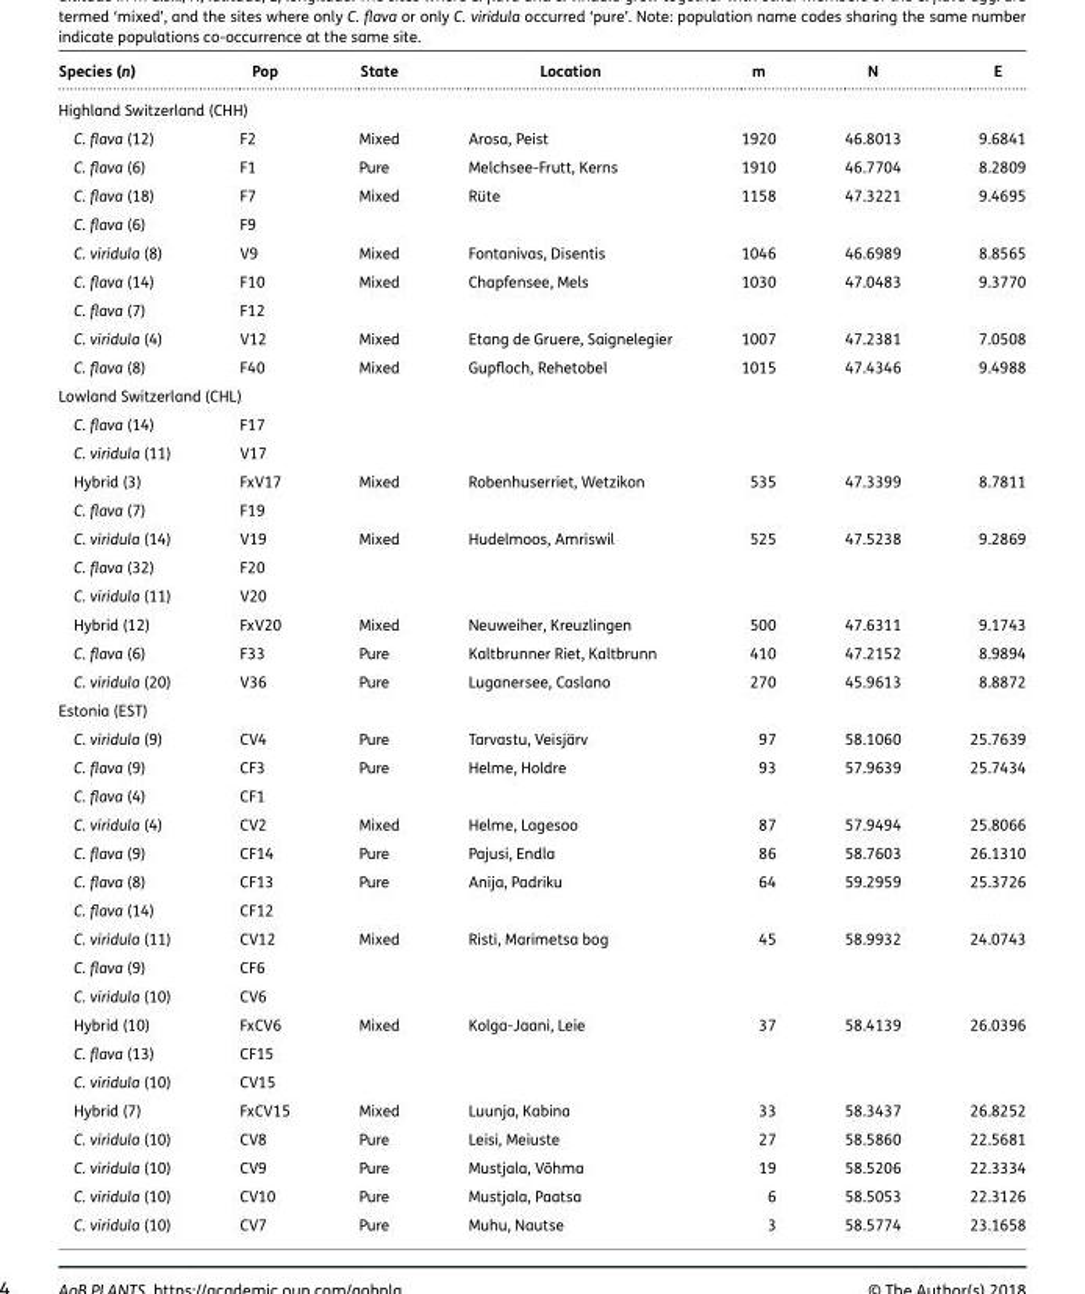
<table><thead><tr><td>Species (n)</td><td>Pop</td><td>State</td><td>Location</td><td>m</td><td>N</td><td>E</td></tr></thead><tbody><tr><td colspan="7">Highland Switzerland (CHH)</td></tr><tr><td>C. flava (12)</td><td>F2</td><td>Mixed</td><td>Arosa, Peist</td><td>1920</td><td>46.8013</td><td>9.6841</td></tr><tr><td>C. flava (6)</td><td>F1</td><td>Pure</td><td>Melchsee-Frutt, Kerns</td><td>1910</td><td>46.7704</td><td>8.2809</td></tr><tr><td>C. flava (18)</td><td>F7</td><td>Mixed</td><td>Rüte</td><td>1158</td><td>47.3221</td><td>9.4695</td></tr><tr><td>C. flava (6)</td><td>F9</td><td></td><td></td><td></td><td></td><td></td></tr><tr><td>C. viridula (8)</td><td>V9</td><td>Mixed</td><td>Fontanivas, Disentis</td><td>1046</td><td>46.6989</td><td>8.8565</td></tr><tr><td>C. flava (14)</td><td>F10</td><td>Mixed</td><td>Chapfensee, Mels</td><td>1030</td><td>47.0483</td><td>9.3770</td></tr><tr><td>C. flava (7)</td><td>F12</td><td></td><td></td><td></td><td></td><td></td></tr><tr><td>C. viridula (4)</td><td>V12</td><td>Mixed</td><td>Etang de Gruere, Saignelegier</td><td>1007</td><td>47.2381</td><td>7.0508</td></tr><tr><td>C. flava (8)</td><td>F40</td><td>Mixed</td><td>Gupfloch, Rehetobel</td><td>1015</td><td>47.4346</td><td>9.4988</td></tr><tr><td colspan="7">Lowland Switzerland (CHL)</td></tr><tr><td>C. flava (14)</td><td>F17</td><td></td><td></td><td></td><td></td><td></td></tr><tr><td>C. viridula (11)</td><td>V17</td><td></td><td></td><td></td><td></td><td></td></tr><tr><td>Hybrid (3)</td><td>FxV17</td><td>Mixed</td><td>Robenhuserriet, Wetzikon</td><td>535</td><td>47.3399</td><td>8.7811</td></tr><tr><td>C. flava (7)</td><td>F19</td><td></td><td></td><td></td><td></td><td></td></tr><tr><td>C. viridula (14)</td><td>V19</td><td>Mixed</td><td>Hudelmoos, Amriswil</td><td>525</td><td>47.5238</td><td>9.2869</td></tr><tr><td>C. flava (32)</td><td>F20</td><td></td><td></td><td></td><td></td><td></td></tr><tr><td>C. viridula (11)</td><td>V20</td><td></td><td></td><td></td><td></td><td></td></tr><tr><td>Hybrid (12)</td><td>FxV20</td><td>Mixed</td><td>Neuweiher, Kreuzlingen</td><td>500</td><td>47.6311</td><td>9.1743</td></tr><tr><td>C. flava (6)</td><td>F33</td><td>Pure</td><td>Kaltbrunner Riet, Kaltbrunn</td><td>410</td><td>47.2152</td><td>8.9894</td></tr><tr><td>C. viridula (20)</td><td>V36</td><td>Pure</td><td>Luganersee, Caslano</td><td>270</td><td>45.9613</td><td>8.8872</td></tr><tr><td colspan="7">Estonia (EST)</td></tr><tr><td>C. viridula (9)</td><td>CV4</td><td>Pure</td><td>Tarvastu, Veisjärv</td><td>97</td><td>58.1060</td><td>25.7639</td></tr><tr><td>C. flava (9)</td><td>CF3</td><td>Pure</td><td>Helme, Holdre</td><td>93</td><td>57.9639</td><td>25.7434</td></tr><tr><td>C. flava (4)</td><td>CF1</td><td></td><td></td><td></td><td></td><td></td></tr><tr><td>C. viridula (4)</td><td>CV2</td><td>Mixed</td><td>Helme, Lagesoo</td><td>87</td><td>57.9494</td><td>25.8066</td></tr><tr><td>C. flava (9)</td><td>CF14</td><td>Pure</td><td>Pajusi, Endla</td><td>86</td><td>58.7603</td><td>26.1310</td></tr><tr><td>C. flava (8)</td><td>CF13</td><td>Pure</td><td>Anija, Padriku</td><td>64</td><td>59.2959</td><td>25.3726</td></tr><tr><td>C. flava (14)</td><td>CF12</td><td></td><td></td><td></td><td></td><td></td></tr><tr><td>C. viridula (11)</td><td>CV12</td><td>Mixed</td><td>Risti, Marimetsa bog</td><td>45</td><td>58.9932</td><td>24.0743</td></tr><tr><td>C. flava (9)</td><td>CF6</td><td></td><td></td><td></td><td></td><td></td></tr><tr><td>C. viridula (10)</td><td>CV6</td><td></td><td></td><td></td><td></td><td></td></tr><tr><td>Hybrid (10)</td><td>FxCV6</td><td>Mixed</td><td>Kolga-Jaani, Leie</td><td>37</td><td>58.4139</td><td>26.0396</td></tr><tr><td>C. flava (13)</td><td>CF15</td><td></td><td></td><td></td><td></td><td></td></tr><tr><td>C. viridula (10)</td><td>CV15</td><td></td><td></td><td></td><td></td><td></td></tr><tr><td>Hybrid (7)</td><td>FxCV15</td><td>Mixed</td><td>Luunja, Kabina</td><td>33</td><td>58.3437</td><td>26.8252</td></tr><tr><td>C. viridula (10)</td><td>CV8</td><td>Pure</td><td>Leisi, Meiuste</td><td>27</td><td>58.5860</td><td>22.5681</td></tr><tr><td>C. viridula (10)</td><td>CV9</td><td>Pure</td><td>Mustjala, Võhma</td><td>19</td><td>58.5206</td><td>22.3334</td></tr><tr><td>C. viridula (10)</td><td>CV10</td><td>Pure</td><td>Mustjala, Paatsa</td><td>6</td><td>58.5053</td><td>22.3126</td></tr><tr><td>C. viridula (10)</td><td>CV7</td><td>Pure</td><td>Muhu, Nautse</td><td>3</td><td>58.5774</td><td>23.1658</td></tr></tbody></table>